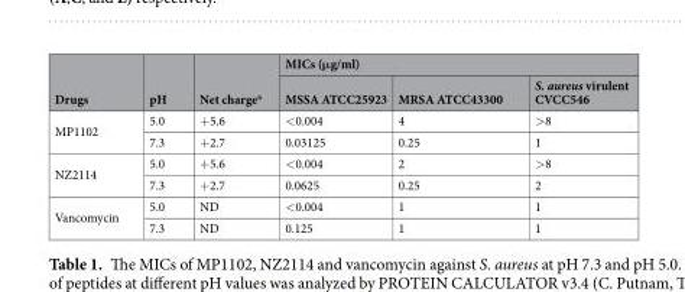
<table><thead><tr><td rowspan="2">Drugs</td><td rowspan="2">pH</td><td rowspan="2">Net charge<sup>a</sup></td><td colspan="3">MICs (μg/ml)</td></tr><tr><td>MSSA ATCC25923</td><td>MRSA ATCC43300</td><td>S. aureus virulent CVCC546</td></tr></thead><tbody><tr><td rowspan="2">MP1102</td><td>5.0</td><td>+5.6</td><td>&lt;0.004</td><td>4</td><td>&gt;8</td></tr><tr><td>7.3</td><td>+2.7</td><td>0.03125</td><td>0.25</td><td>1</td></tr><tr><td rowspan="2">NZ2114</td><td>5.0</td><td>+5.6</td><td>&lt;0.004</td><td>2</td><td>&gt;8</td></tr><tr><td>7.3</td><td>+2.7</td><td>0.0625</td><td>0.25</td><td>2</td></tr><tr><td rowspan="2">Vancomycin</td><td>5.0</td><td>ND</td><td>&lt;0.004</td><td>1</td><td>1</td></tr><tr><td>7.3</td><td>ND</td><td>0.125</td><td>1</td><td>1</td></tr></tbody></table>